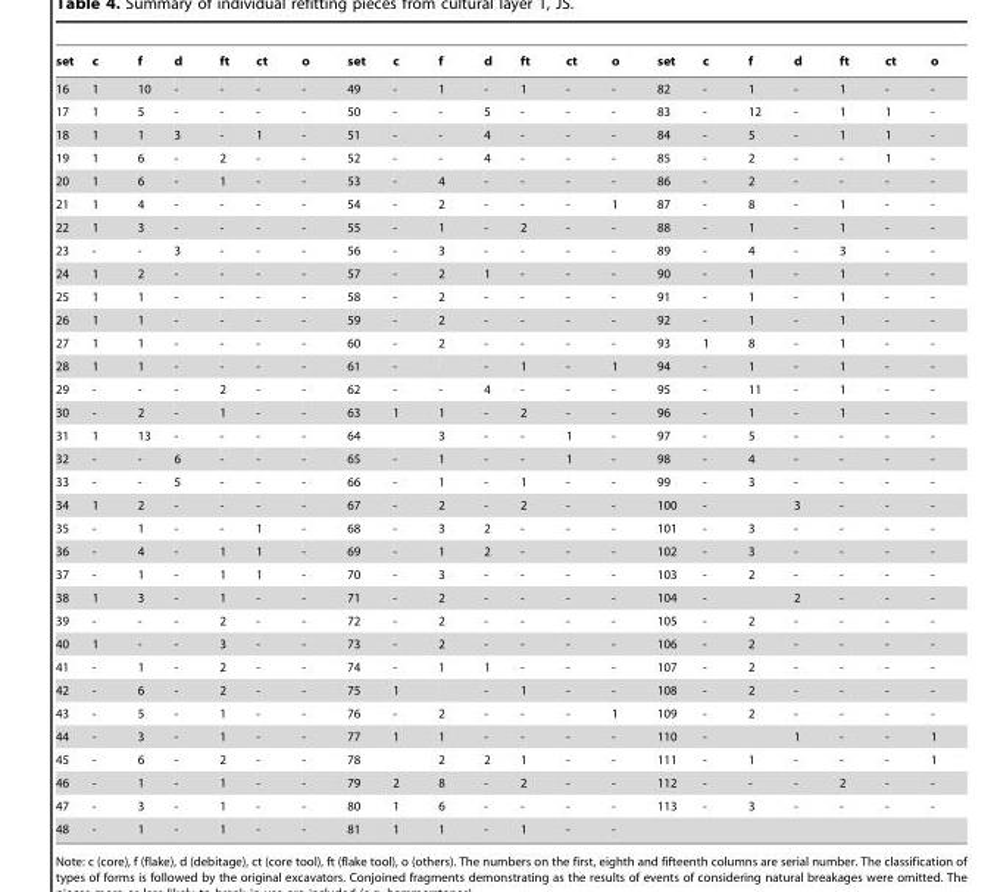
<table><thead><tr><td>set</td><td>c</td><td>f</td><td>d</td><td>ft</td><td>ct</td><td>o</td><td>set</td><td>c</td><td>f</td><td>d</td><td>ft</td><td>ct</td><td>o</td><td>set</td><td>c</td><td>f</td><td>d</td><td>ft</td><td>ct</td><td>o</td></tr></thead><tbody><tr><td>16</td><td>1</td><td>10</td><td>-</td><td>-</td><td>-</td><td>-</td><td>49</td><td>-</td><td>1</td><td>-</td><td>1</td><td>-</td><td>-</td><td>82</td><td>-</td><td>1</td><td>-</td><td>1</td><td>-</td><td>-</td></tr><tr><td>17</td><td>1</td><td>5</td><td>-</td><td>-</td><td>-</td><td>-</td><td>50</td><td>-</td><td>-</td><td>5</td><td>-</td><td>-</td><td>-</td><td>83</td><td>-</td><td>12</td><td>-</td><td>1</td><td>1</td><td>-</td></tr><tr><td>18</td><td>1</td><td>1</td><td>3</td><td>-</td><td>1</td><td>-</td><td>51</td><td>-</td><td>-</td><td>4</td><td>-</td><td>-</td><td>-</td><td>84</td><td>-</td><td>5</td><td>-</td><td>1</td><td>1</td><td>-</td></tr><tr><td>19</td><td>1</td><td>6</td><td>-</td><td>2</td><td>-</td><td>-</td><td>52</td><td>-</td><td>-</td><td>4</td><td>-</td><td>-</td><td>-</td><td>85</td><td>-</td><td>2</td><td>-</td><td>-</td><td>1</td><td>-</td></tr><tr><td>20</td><td>1</td><td>6</td><td>-</td><td>1</td><td>-</td><td>-</td><td>53</td><td>-</td><td>4</td><td>-</td><td>-</td><td>-</td><td>-</td><td>86</td><td>-</td><td>2</td><td>-</td><td>-</td><td>-</td><td>-</td></tr><tr><td>21</td><td>1</td><td>4</td><td>-</td><td>-</td><td>-</td><td>-</td><td>54</td><td>-</td><td>2</td><td>-</td><td>-</td><td>-</td><td>1</td><td>87</td><td>-</td><td>8</td><td>-</td><td>1</td><td>-</td><td>-</td></tr><tr><td>22</td><td>1</td><td>3</td><td>-</td><td>-</td><td>-</td><td>-</td><td>55</td><td>-</td><td>1</td><td>-</td><td>2</td><td>-</td><td>-</td><td>88</td><td>-</td><td>1</td><td>-</td><td>1</td><td>-</td><td>-</td></tr><tr><td>23</td><td>-</td><td>-</td><td>3</td><td>-</td><td>-</td><td>-</td><td>56</td><td>-</td><td>3</td><td>-</td><td>-</td><td>-</td><td>-</td><td>89</td><td>-</td><td>4</td><td>-</td><td>3</td><td>-</td><td>-</td></tr><tr><td>24</td><td>1</td><td>2</td><td>-</td><td>-</td><td>-</td><td>-</td><td>57</td><td>-</td><td>2</td><td>1</td><td>-</td><td>-</td><td>-</td><td>90</td><td>-</td><td>1</td><td>-</td><td>1</td><td>-</td><td>-</td></tr><tr><td>25</td><td>1</td><td>1</td><td>-</td><td>-</td><td>-</td><td>-</td><td>58</td><td>-</td><td>2</td><td>-</td><td>-</td><td>-</td><td>-</td><td>91</td><td>-</td><td>1</td><td>-</td><td>1</td><td>-</td><td>-</td></tr><tr><td>26</td><td>1</td><td>1</td><td>-</td><td>-</td><td>-</td><td>-</td><td>59</td><td>-</td><td>2</td><td>-</td><td>-</td><td>-</td><td>-</td><td>92</td><td>-</td><td>1</td><td>-</td><td>1</td><td>-</td><td>-</td></tr><tr><td>27</td><td>1</td><td>1</td><td>-</td><td>-</td><td>-</td><td>-</td><td>60</td><td>-</td><td>2</td><td>-</td><td>-</td><td>-</td><td>-</td><td>93</td><td>1</td><td>8</td><td>-</td><td>1</td><td>-</td><td>-</td></tr><tr><td>28</td><td>1</td><td>1</td><td>-</td><td>-</td><td>-</td><td>-</td><td>61</td><td>-</td><td></td><td>-</td><td>1</td><td>-</td><td>1</td><td>94</td><td>-</td><td>1</td><td>-</td><td>1</td><td>-</td><td>-</td></tr><tr><td>29</td><td>-</td><td>-</td><td>-</td><td>2</td><td>-</td><td>-</td><td>62</td><td>-</td><td>-</td><td>4</td><td>-</td><td>-</td><td>-</td><td>95</td><td>-</td><td>11</td><td>-</td><td>1</td><td>-</td><td>-</td></tr><tr><td>30</td><td>-</td><td>2</td><td>-</td><td>1</td><td>-</td><td>-</td><td>63</td><td>1</td><td>1</td><td>-</td><td>2</td><td>-</td><td>-</td><td>96</td><td>-</td><td>1</td><td>-</td><td>1</td><td>-</td><td>-</td></tr><tr><td>31</td><td>1</td><td>13</td><td>-</td><td>-</td><td>-</td><td>-</td><td>64</td><td></td><td>3</td><td>-</td><td>-</td><td>1</td><td>-</td><td>97</td><td>-</td><td>5</td><td>-</td><td>-</td><td>-</td><td>-</td></tr><tr><td>32</td><td>-</td><td>-</td><td>6</td><td>-</td><td>-</td><td>-</td><td>65</td><td>-</td><td>1</td><td>-</td><td>-</td><td>1</td><td>-</td><td>98</td><td>-</td><td>4</td><td>-</td><td>-</td><td>-</td><td>-</td></tr><tr><td>33</td><td>-</td><td>-</td><td>5</td><td>-</td><td>-</td><td>-</td><td>66</td><td>-</td><td>1</td><td>-</td><td>1</td><td>-</td><td>-</td><td>99</td><td>-</td><td>3</td><td>-</td><td>-</td><td>-</td><td>-</td></tr><tr><td>34</td><td>1</td><td>2</td><td>-</td><td>-</td><td>-</td><td>-</td><td>67</td><td>-</td><td>2</td><td>-</td><td>2</td><td>-</td><td>-</td><td>100</td><td>-</td><td></td><td>3</td><td>-</td><td>-</td><td>-</td></tr><tr><td>35</td><td>-</td><td>1</td><td>-</td><td>-</td><td>1</td><td>-</td><td>68</td><td>-</td><td>3</td><td>2</td><td>-</td><td>-</td><td>-</td><td>101</td><td>-</td><td>3</td><td>-</td><td>-</td><td>-</td><td>-</td></tr><tr><td>36</td><td>-</td><td>4</td><td>-</td><td>1</td><td>1</td><td>-</td><td>69</td><td>-</td><td>1</td><td>2</td><td>-</td><td>-</td><td>-</td><td>102</td><td>-</td><td>3</td><td>-</td><td>-</td><td>-</td><td>-</td></tr><tr><td>37</td><td>-</td><td>1</td><td>-</td><td>1</td><td>1</td><td>-</td><td>70</td><td>-</td><td>3</td><td>-</td><td>-</td><td>-</td><td>-</td><td>103</td><td>-</td><td>2</td><td>-</td><td>-</td><td>-</td><td>-</td></tr><tr><td>38</td><td>1</td><td>3</td><td>-</td><td>1</td><td>-</td><td>-</td><td>71</td><td>-</td><td>2</td><td>-</td><td>-</td><td>-</td><td>-</td><td>104</td><td>-</td><td></td><td>2</td><td>-</td><td>-</td><td>-</td></tr><tr><td>39</td><td>-</td><td>-</td><td>-</td><td>2</td><td>-</td><td>-</td><td>72</td><td>-</td><td>2</td><td>-</td><td>-</td><td>-</td><td>-</td><td>105</td><td>-</td><td>2</td><td>-</td><td>-</td><td>-</td><td>-</td></tr><tr><td>40</td><td>1</td><td>-</td><td>-</td><td>3</td><td>-</td><td>-</td><td>73</td><td>-</td><td>2</td><td>-</td><td>-</td><td>-</td><td>-</td><td>106</td><td>-</td><td>2</td><td>-</td><td>-</td><td>-</td><td>-</td></tr><tr><td>41</td><td>-</td><td>1</td><td>-</td><td>2</td><td>-</td><td>-</td><td>74</td><td>-</td><td>1</td><td>1</td><td>-</td><td>-</td><td>-</td><td>107</td><td>-</td><td>2</td><td>-</td><td>-</td><td>-</td><td>-</td></tr><tr><td>42</td><td>-</td><td>6</td><td>-</td><td>2</td><td>-</td><td>-</td><td>75</td><td>1</td><td></td><td>-</td><td>1</td><td>-</td><td>-</td><td>108</td><td>-</td><td>2</td><td>-</td><td>-</td><td>-</td><td>-</td></tr><tr><td>43</td><td>-</td><td>5</td><td>-</td><td>1</td><td>-</td><td>-</td><td>76</td><td>-</td><td>2</td><td>-</td><td>-</td><td>-</td><td>1</td><td>109</td><td>-</td><td>2</td><td>-</td><td>-</td><td>-</td><td>-</td></tr><tr><td>44</td><td>-</td><td>3</td><td>-</td><td>1</td><td>-</td><td>-</td><td>77</td><td>1</td><td>1</td><td>-</td><td>-</td><td>-</td><td>-</td><td>110</td><td>-</td><td></td><td>1</td><td>-</td><td>-</td><td>1</td></tr><tr><td>45</td><td>-</td><td>6</td><td>-</td><td>2</td><td>-</td><td>-</td><td>78</td><td></td><td>2</td><td>2</td><td>1</td><td>-</td><td>-</td><td>111</td><td>-</td><td>1</td><td>-</td><td>-</td><td>-</td><td>1</td></tr><tr><td>46</td><td>-</td><td>1</td><td>-</td><td>1</td><td>-</td><td>-</td><td>79</td><td>2</td><td>8</td><td>-</td><td>2</td><td>-</td><td>-</td><td>112</td><td>-</td><td>-</td><td>-</td><td>2</td><td>-</td><td>-</td></tr><tr><td>47</td><td>-</td><td>3</td><td>-</td><td>1</td><td>-</td><td>-</td><td>80</td><td>1</td><td>6</td><td>-</td><td>-</td><td>-</td><td>-</td><td>113</td><td>-</td><td>3</td><td>-</td><td>-</td><td>-</td><td>-</td></tr><tr><td>48</td><td>-</td><td>1</td><td>-</td><td>1</td><td>-</td><td>-</td><td>81</td><td>1</td><td>1</td><td>-</td><td>1</td><td>-</td><td>-</td><td></td><td></td><td></td><td></td><td></td><td></td><td></td></tr></tbody></table>